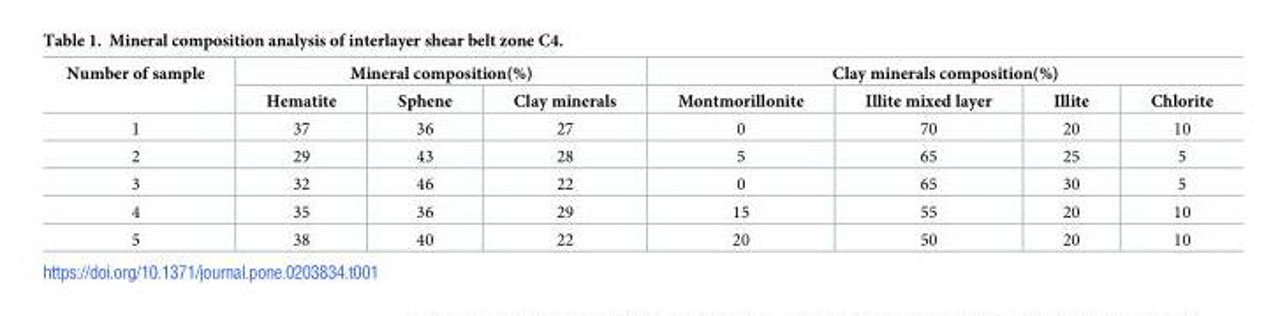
<table><thead><tr><td rowspan="2">Number of sample</td><td colspan="3">Mineral composition(%)</td><td colspan="4">Clay minerals composition(%)</td></tr><tr><td>Hematite</td><td>Sphene</td><td>Clay minerals</td><td>Montmorillonite</td><td>Illite mixed layer</td><td>Illite</td><td>Chlorite</td></tr></thead><tbody><tr><td>1</td><td>37</td><td>36</td><td>27</td><td>0</td><td>70</td><td>20</td><td>10</td></tr><tr><td>2</td><td>29</td><td>43</td><td>28</td><td>5</td><td>65</td><td>25</td><td>5</td></tr><tr><td>3</td><td>32</td><td>46</td><td>22</td><td>0</td><td>65</td><td>30</td><td>5</td></tr><tr><td>4</td><td>35</td><td>36</td><td>29</td><td>15</td><td>55</td><td>20</td><td>10</td></tr><tr><td>5</td><td>38</td><td>40</td><td>22</td><td>20</td><td>50</td><td>20</td><td>10</td></tr></tbody></table>